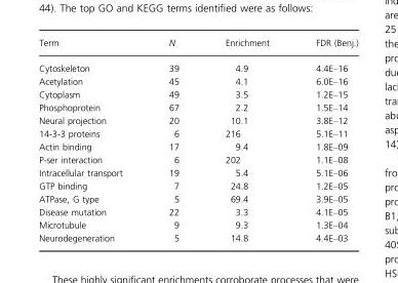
<table><thead><tr><td>Term</td><td>N</td><td>Enrichment</td><td>FDR (Benj.)</td></tr></thead><tbody><tr><td>Cytoskeleton</td><td>39</td><td>4.9</td><td>4.4E–16</td></tr><tr><td>Acetylation</td><td>45</td><td>4.1</td><td>6.0E–16</td></tr><tr><td>Cytoplasm</td><td>49</td><td>3.5</td><td>1.2E–15</td></tr><tr><td>Phosphoprotein</td><td>67</td><td>2.2</td><td>1.5E–14</td></tr><tr><td>Neural projection</td><td>20</td><td>10.1</td><td>3.8E–12</td></tr><tr><td>14-3-3 proteins</td><td>6</td><td>216</td><td>5.1E–11</td></tr><tr><td>Actin binding</td><td>17</td><td>9.4</td><td>1.8E–09</td></tr><tr><td>P-ser interaction</td><td>6</td><td>202</td><td>1.1E–08</td></tr><tr><td>Intracellular transport</td><td>19</td><td>5.4</td><td>5.1E–06</td></tr><tr><td>GTP binding</td><td>7</td><td>24.8</td><td>1.2E–05</td></tr><tr><td>ATPase, G type</td><td>5</td><td>69.4</td><td>3.9E–05</td></tr><tr><td>Disease mutation</td><td>22</td><td>3.3</td><td>4.1E–05</td></tr><tr><td>Microtubule</td><td>9</td><td>9.3</td><td>1.3E–04</td></tr><tr><td>Neurodegeneration</td><td>5</td><td>14.8</td><td>4.4E–03</td></tr></tbody></table>